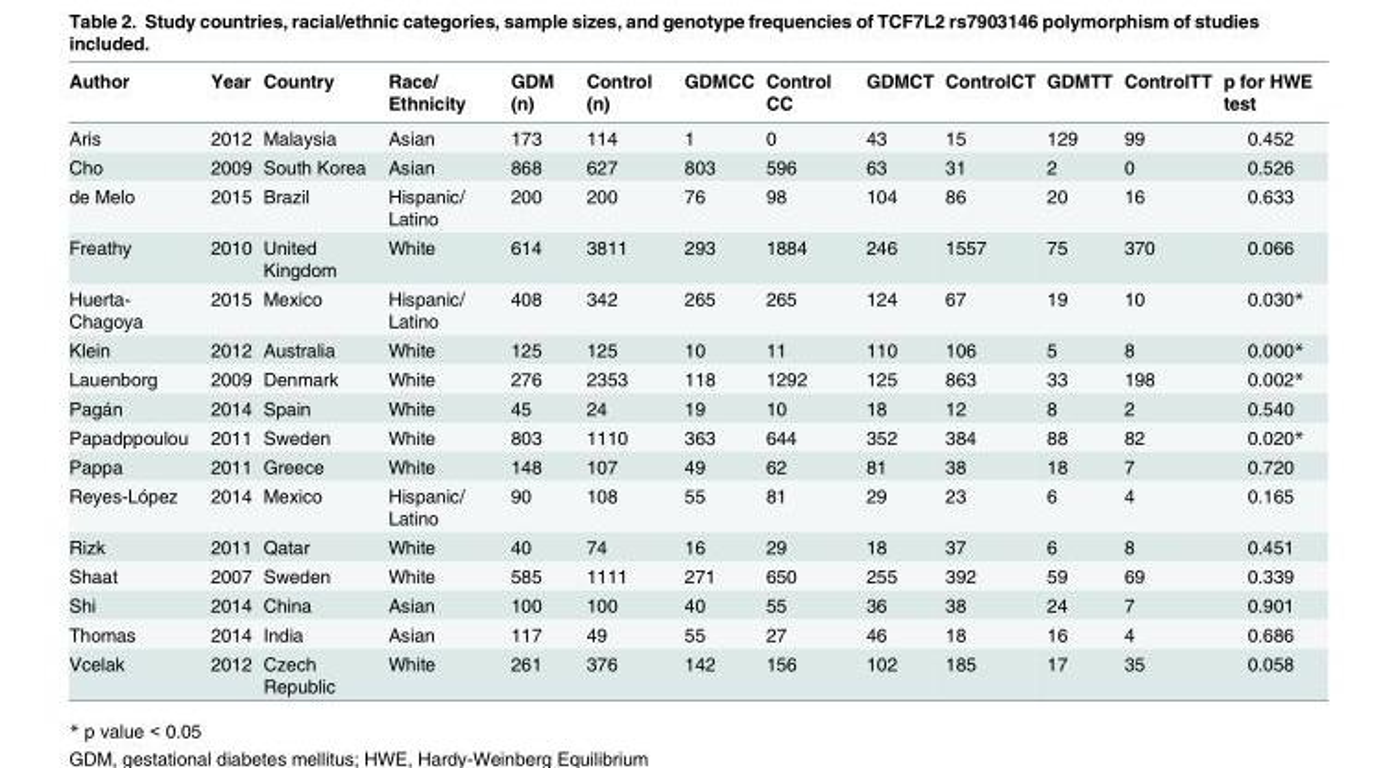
<table><thead><tr><td>Author</td><td>Year</td><td>Country</td><td>Race/ Ethnicity</td><td>GDM (n)</td><td>Control (n)</td><td>GDMCC</td><td>Control CC</td><td>GDMCT</td><td>ControlCT</td><td>GDMTT</td><td>ControlTT</td><td>p for HWE test</td></tr></thead><tbody><tr><td>Aris</td><td>2012</td><td>Malaysia</td><td>Asian</td><td>173</td><td>114</td><td>1</td><td>0</td><td>43</td><td>15</td><td>129</td><td>99</td><td>0.452</td></tr><tr><td>Cho</td><td>2009</td><td>South Korea</td><td>Asian</td><td>868</td><td>627</td><td>803</td><td>596</td><td>63</td><td>31</td><td>2</td><td>0</td><td>0.526</td></tr><tr><td>de Melo</td><td>2015</td><td>Brazil</td><td>Hispanic/ Latino</td><td>200</td><td>200</td><td>76</td><td>98</td><td>104</td><td>86</td><td>20</td><td>16</td><td>0.633</td></tr><tr><td>Freathy</td><td>2010</td><td>United Kingdom</td><td>White</td><td>614</td><td>3811</td><td>293</td><td>1884</td><td>246</td><td>1557</td><td>75</td><td>370</td><td>0.066</td></tr><tr><td>Huerta- Chagoya</td><td>2015</td><td>Mexico</td><td>Hispanic/ Latino</td><td>408</td><td>342</td><td>265</td><td>265</td><td>124</td><td>67</td><td>19</td><td>10</td><td>0.030*</td></tr><tr><td>Klein</td><td>2012</td><td>Australia</td><td>White</td><td>125</td><td>125</td><td>10</td><td>11</td><td>110</td><td>106</td><td>5</td><td>8</td><td>0.000*</td></tr><tr><td>Lauenborg</td><td>2009</td><td>Denmark</td><td>White</td><td>276</td><td>2353</td><td>118</td><td>1292</td><td>125</td><td>863</td><td>33</td><td>198</td><td>0.002*</td></tr><tr><td>Pagán</td><td>2014</td><td>Spain</td><td>White</td><td>45</td><td>24</td><td>19</td><td>10</td><td>18</td><td>12</td><td>8</td><td>2</td><td>0.540</td></tr><tr><td>Papadppoulou</td><td>2011</td><td>Sweden</td><td>White</td><td>803</td><td>1110</td><td>363</td><td>644</td><td>352</td><td>384</td><td>88</td><td>82</td><td>0.020*</td></tr><tr><td>Pappa</td><td>2011</td><td>Greece</td><td>White</td><td>148</td><td>107</td><td>49</td><td>62</td><td>81</td><td>38</td><td>18</td><td>7</td><td>0.720</td></tr><tr><td>Reyes-López</td><td>2014</td><td>Mexico</td><td>Hispanic/ Latino</td><td>90</td><td>108</td><td>55</td><td>81</td><td>29</td><td>23</td><td>6</td><td>4</td><td>0.165</td></tr><tr><td>Rizk</td><td>2011</td><td>Qatar</td><td>White</td><td>40</td><td>74</td><td>16</td><td>29</td><td>18</td><td>37</td><td>6</td><td>8</td><td>0.451</td></tr><tr><td>Shaat</td><td>2007</td><td>Sweden</td><td>White</td><td>585</td><td>1111</td><td>271</td><td>650</td><td>255</td><td>392</td><td>59</td><td>69</td><td>0.339</td></tr><tr><td>Shi</td><td>2014</td><td>China</td><td>Asian</td><td>100</td><td>100</td><td>40</td><td>55</td><td>36</td><td>38</td><td>24</td><td>7</td><td>0.901</td></tr><tr><td>Thomas</td><td>2014</td><td>India</td><td>Asian</td><td>117</td><td>49</td><td>55</td><td>27</td><td>46</td><td>18</td><td>16</td><td>4</td><td>0.686</td></tr><tr><td>Vcelak</td><td>2012</td><td>Czech Republic</td><td>White</td><td>261</td><td>376</td><td>142</td><td>156</td><td>102</td><td>185</td><td>17</td><td>35</td><td>0.058</td></tr></tbody></table>